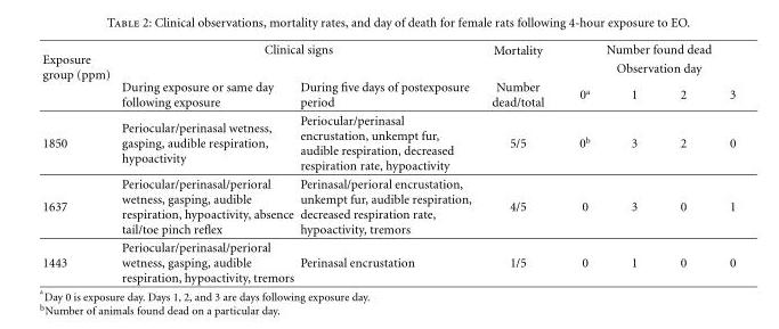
<table><thead><tr><td rowspan="2">Exposure group (ppm)</td><td colspan="2">Clinical signs</td><td rowspan="2">Mortality Number dead/total</td><td colspan="4">Number found dead Observation day</td></tr><tr><td>During exposure or same day following exposure</td><td>During five days of postexposure period</td><td>0<sup>a</sup></td><td>1</td><td>2</td><td>3</td></tr></thead><tbody><tr><td>1850</td><td>Periocular/perinasal wetness, gasping, audible respiration, hypoactivity</td><td>Periocular/perinasal encrustation, unkempt fur, audible respiration, decreased respiration rate, hypoactivity</td><td>5/5</td><td>0<sup>b</sup></td><td>3</td><td>2</td><td>0</td></tr><tr><td>1637</td><td>Periocular/perinasal/perioral wetness, gasping, audible respiration, hypoactivity, absence tail/toe pinch reflex</td><td>Perinasal/perioral encrustation, unkempt fur, audible respiration, decreased respiration rate, hypoactivity, tremors</td><td>4/5</td><td>0</td><td>3</td><td>0</td><td>1</td></tr><tr><td>1443</td><td>Periocular/perinasal/perioral wetness, gasping, audible respiration, hypoactivity, tremors</td><td>Perinasal encrustation</td><td>1/5</td><td>0</td><td>1</td><td>0</td><td>0</td></tr></tbody></table>